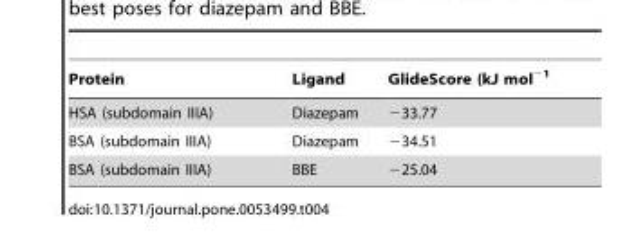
<table><thead><tr><td>Protein</td><td>Ligand</td><td>GlideScore (kJ mol<sup>−1</sup></td></tr></thead><tbody><tr><td>HSA (subdomain IIIA)</td><td>Diazepam</td><td>−33.77</td></tr><tr><td>BSA (subdomain IIIA)</td><td>Diazepam</td><td>−34.51</td></tr><tr><td>BSA (subdomain IIIA)</td><td>BBE</td><td>−25.04</td></tr></tbody></table>